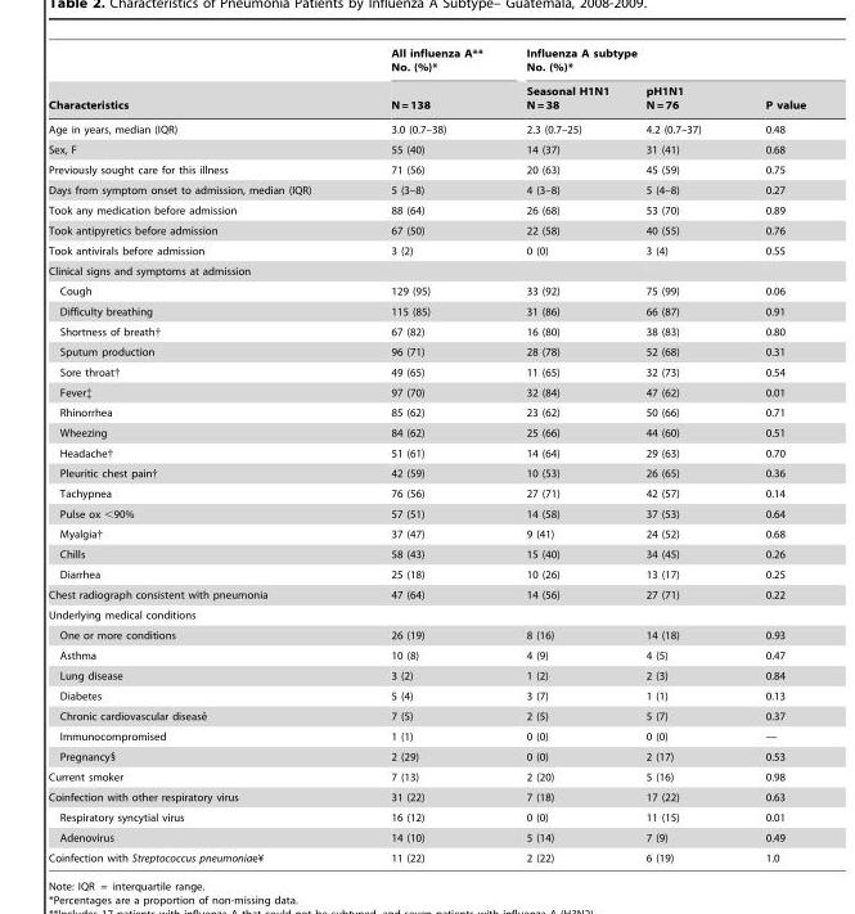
<table><thead><tr><td rowspan="2">Characteristics</td><td rowspan="2">All influenza A** No. (%)* N = 138</td><td colspan="3">Influenza A subtype No. (%)*</td></tr><tr><td>Seasonal H1N1 N = 38</td><td>pH1N1 N = 76</td><td>P value</td></tr></thead><tbody><tr><td>Age in years, median (IQR)</td><td>3.0 (0.7–38)</td><td>2.3 (0.7–25)</td><td>4.2 (0.7–37)</td><td>0.48</td></tr><tr><td>Sex, F</td><td>55 (40)</td><td>14 (37)</td><td>31 (41)</td><td>0.68</td></tr><tr><td>Previously sought care for this illness</td><td>71 (56)</td><td>20 (63)</td><td>45 (59)</td><td>0.75</td></tr><tr><td>Days from symptom onset to admission, median (IQR)</td><td>5 (3–8)</td><td>4 (3–8)</td><td>5 (4–8)</td><td>0.27</td></tr><tr><td>Took any medication before admission</td><td>88 (64)</td><td>26 (68)</td><td>53 (70)</td><td>0.89</td></tr><tr><td>Took antipyretics before admission</td><td>67 (50)</td><td>22 (58)</td><td>40 (55)</td><td>0.76</td></tr><tr><td>Took antivirals before admission</td><td>3 (2)</td><td>0 (0)</td><td>3 (4)</td><td>0.55</td></tr><tr><td colspan="5">Clinical signs and symptoms at admission</td></tr><tr><td>Cough</td><td>129 (95)</td><td>33 (92)</td><td>75 (99)</td><td>0.06</td></tr><tr><td>Difficulty breathing</td><td>115 (85)</td><td>31 (86)</td><td>66 (87)</td><td>0.91</td></tr><tr><td>Shortness of breath†</td><td>67 (82)</td><td>16 (80)</td><td>38 (83)</td><td>0.80</td></tr><tr><td>Sputum production</td><td>96 (71)</td><td>28 (78)</td><td>52 (68)</td><td>0.31</td></tr><tr><td>Sore throat†</td><td>49 (65)</td><td>11 (65)</td><td>32 (73)</td><td>0.54</td></tr><tr><td>Fever‡</td><td>97 (70)</td><td>32 (84)</td><td>47 (62)</td><td>0.01</td></tr><tr><td>Rhinorrhea</td><td>85 (62)</td><td>23 (62)</td><td>50 (66)</td><td>0.71</td></tr><tr><td>Wheezing</td><td>84 (62)</td><td>25 (66)</td><td>44 (60)</td><td>0.51</td></tr><tr><td>Headache†</td><td>51 (61)</td><td>14 (64)</td><td>29 (63)</td><td>0.70</td></tr><tr><td>Pleuritic chest pain†</td><td>42 (59)</td><td>10 (53)</td><td>26 (65)</td><td>0.36</td></tr><tr><td>Tachypnea</td><td>76 (56)</td><td>27 (71)</td><td>42 (57)</td><td>0.14</td></tr><tr><td>Pulse ox &lt;90%</td><td>57 (51)</td><td>14 (58)</td><td>37 (53)</td><td>0.64</td></tr><tr><td>Myalgia†</td><td>37 (47)</td><td>9 (41)</td><td>24 (52)</td><td>0.68</td></tr><tr><td>Chills</td><td>58 (43)</td><td>15 (40)</td><td>34 (45)</td><td>0.26</td></tr><tr><td>Diarrhea</td><td>25 (18)</td><td>10 (26)</td><td>13 (17)</td><td>0.25</td></tr><tr><td>Chest radiograph consistent with pneumonia</td><td>47 (64)</td><td>14 (56)</td><td>27 (71)</td><td>0.22</td></tr><tr><td colspan="5">Underlying medical conditions</td></tr><tr><td>One or more conditions</td><td>26 (19)</td><td>8 (16)</td><td>14 (18)</td><td>0.93</td></tr><tr><td>Asthma</td><td>10 (8)</td><td>4 (9)</td><td>4 (5)</td><td>0.47</td></tr><tr><td>Lung disease</td><td>3 (2)</td><td>1 (2)</td><td>2 (3)</td><td>0.84</td></tr><tr><td>Diabetes</td><td>5 (4)</td><td>3 (7)</td><td>1 (1)</td><td>0.13</td></tr><tr><td>Chronic cardiovascular diseaseˆ</td><td>7 (5)</td><td>2 (5)</td><td>5 (7)</td><td>0.37</td></tr><tr><td>Immunocompromised</td><td>1 (1)</td><td>0 (0)</td><td>0 (0)</td><td>—</td></tr><tr><td>Pregnancy§</td><td>2 (29)</td><td>0 (0)</td><td>2 (17)</td><td>0.53</td></tr><tr><td>Current smoker</td><td>7 (13)</td><td>2 (20)</td><td>5 (16)</td><td>0.98</td></tr><tr><td>Coinfection with other respiratory virus</td><td>31 (22)</td><td>7 (18)</td><td>17 (22)</td><td>0.63</td></tr><tr><td>Respiratory syncytial virus</td><td>16 (12)</td><td>0 (0)</td><td>11 (15)</td><td>0.01</td></tr><tr><td>Adenovirus</td><td>14 (10)</td><td>5 (14)</td><td>7 (9)</td><td>0.49</td></tr><tr><td>Coinfection with Streptococcus pneumoniae¥</td><td>11 (22)</td><td>2 (22)</td><td>6 (19)</td><td>1.0</td></tr></tbody></table>